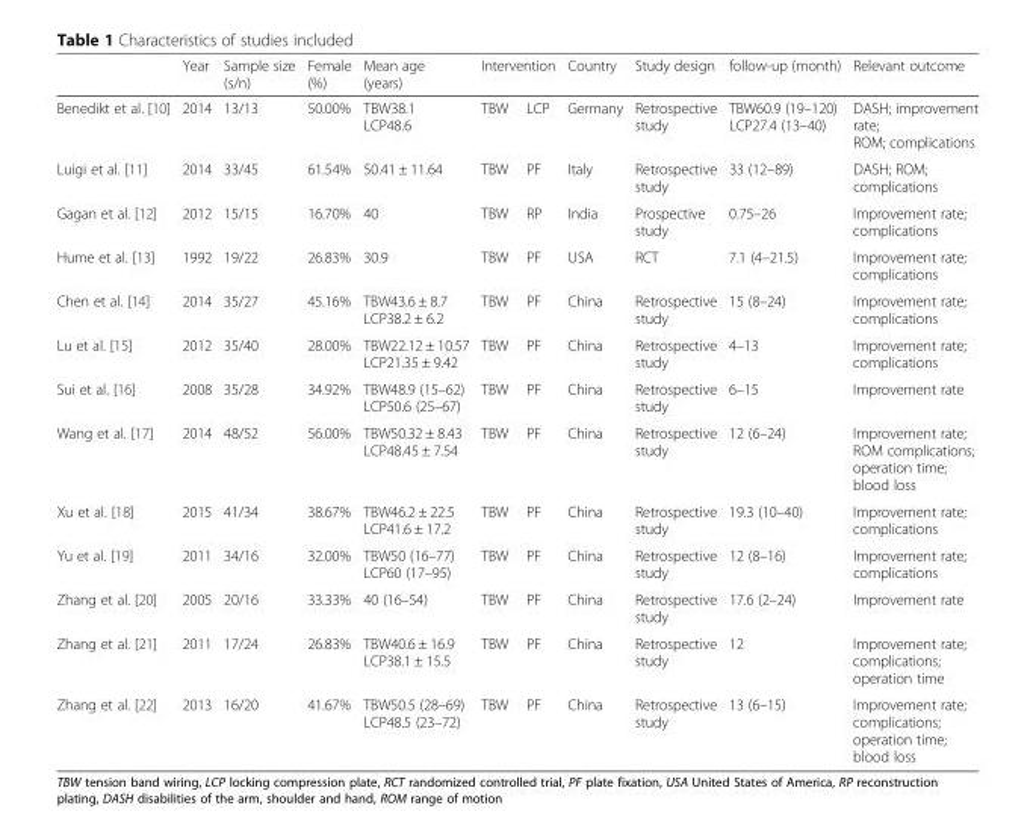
<table><thead><tr><td rowspan="2">Benedikt et al. [10]</td><td rowspan="2">Year 2014</td><td rowspan="2">Sample size (s/n) 13/13</td><td rowspan="2">Female (%) 50.00%</td><td rowspan="2">Mean age (years) TBW38.1 LCP48.6</td><td colspan="2">Intervention</td><td rowspan="2">Country Germany</td><td rowspan="2">Study design Retrospective study</td><td rowspan="2">follow-up (month) TBW60.9 (19–120) LCP27.4 (13–40)</td><td rowspan="2">Relevant outcome DASH; improvement rate; ROM; complications</td></tr><tr><td>TBW</td><td>LCP</td></tr></thead><tbody><tr><td>Luigi et al. [11]</td><td>2014</td><td>33/45</td><td>61.54%</td><td>50.41 ± 11.64</td><td>TBW</td><td>PF</td><td>Italy</td><td>Retrospective study</td><td>33 (12–89)</td><td>DASH; ROM; complications</td></tr><tr><td>Gagan et al. [12]</td><td>2012</td><td>15/15</td><td>16.70%</td><td>40</td><td>TBW</td><td>RP</td><td>India</td><td>Prospective study</td><td>0.75–26</td><td>Improvement rate; complications</td></tr><tr><td>Hume et al. [13]</td><td>1992</td><td>19/22</td><td>26.83%</td><td>30.9</td><td>TBW</td><td>PF</td><td>USA</td><td>RCT</td><td>7.1 (4–21.5)</td><td>Improvement rate; complications</td></tr><tr><td>Chen et al. [14]</td><td>2014</td><td>35/27</td><td>45.16%</td><td>TBW43.6 ± 8.7 LCP38.2 ± 6.2</td><td>TBW</td><td>PF</td><td>China</td><td>Retrospective study</td><td>15 (8–24)</td><td>Improvement rate; complications</td></tr><tr><td>Lu et al. [15]</td><td>2012</td><td>35/40</td><td>28.00%</td><td>TBW22.12 ± 10.57 LCP21.35 ± 9.42</td><td>TBW</td><td>PF</td><td>China</td><td>Retrospective study</td><td>4–13</td><td>Improvement rate; complications</td></tr><tr><td>Sui et al. [16]</td><td>2008</td><td>35/28</td><td>34.92%</td><td>TBW48.9 (15–62) LCP50.6 (25–67)</td><td>TBW</td><td>PF</td><td>China</td><td>Retrospective study</td><td>6–15</td><td>Improvement rate</td></tr><tr><td>Wang et al. [17]</td><td>2014</td><td>48/52</td><td>56.00%</td><td>TBW50.32 ± 8.43 LCP48.45 ± 7.54</td><td>TBW</td><td>PF</td><td>China</td><td>Retrospective study</td><td>12 (6–24)</td><td>Improvement rate; ROM complications; operation time; blood loss</td></tr><tr><td>Xu et al. [18]</td><td>2015</td><td>41/34</td><td>38.67%</td><td>TBW46.2 ± 22.5 LCP41.6 ± 17.2</td><td>TBW</td><td>PF</td><td>China</td><td>Retrospective study</td><td>19.3 (10–40)</td><td>Improvement rate; complications</td></tr><tr><td>Yu et al. [19]</td><td>2011</td><td>34/16</td><td>32.00%</td><td>TBW50 (16–77) LCP60 (17–95)</td><td>TBW</td><td>PF</td><td>China</td><td>Retrospective study</td><td>12 (8–16)</td><td>Improvement rate; complications</td></tr><tr><td>Zhang et al. [20]</td><td>2005</td><td>20/16</td><td>33.33%</td><td>40 (16–54)</td><td>TBW</td><td>PF</td><td>China</td><td>Retrospective study</td><td>17.6 (2–24)</td><td>Improvement rate</td></tr><tr><td>Zhang et al. [21]</td><td>2011</td><td>17/24</td><td>26.83%</td><td>TBW40.6 ± 16.9 LCP38.1 ± 15.5</td><td>TBW</td><td>PF</td><td>China</td><td>Retrospective study</td><td>12</td><td>Improvement rate; complications; operation time</td></tr><tr><td>Zhang et al. [22]</td><td>2013</td><td>16/20</td><td>41.67%</td><td>TBW50.5 (28–69) LCP48.5 (23–72)</td><td>TBW</td><td>PF</td><td>China</td><td>Retrospective study</td><td>13 (6–15)</td><td>Improvement rate; complications; operation time; blood loss</td></tr></tbody></table>